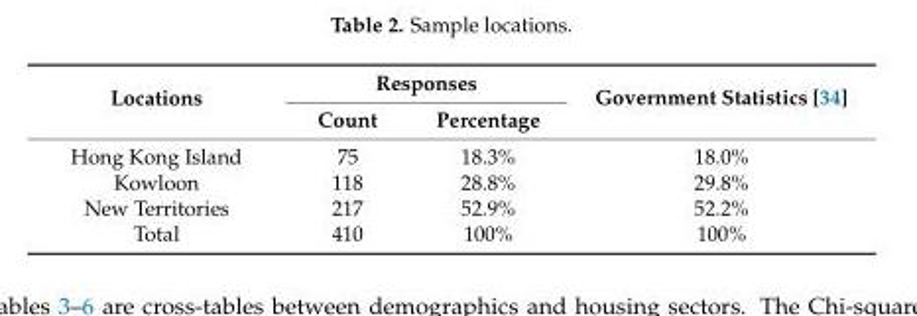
<table><thead><tr><td rowspan="2">Locations</td><td colspan="2">Responses</td><td rowspan="2">Government Statistics [34]</td></tr><tr><td>Count</td><td>Percentage</td></tr></thead><tbody><tr><td>Hong Kong Island</td><td>75</td><td>18.3%</td><td>18.0%</td></tr><tr><td>Kowloon</td><td>118</td><td>28.8%</td><td>29.8%</td></tr><tr><td>New Territories</td><td>217</td><td>52.9%</td><td>52.2%</td></tr><tr><td>Total</td><td>410</td><td>100%</td><td>100%</td></tr></tbody></table>